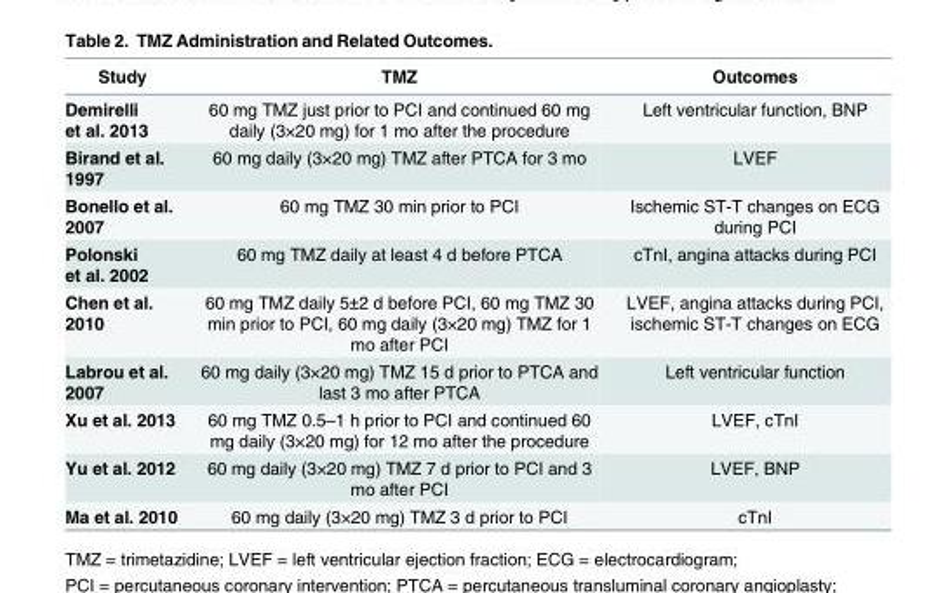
<table><thead><tr><td>Study</td><td>TMZ</td><td>Outcomes</td></tr></thead><tbody><tr><td>Demirelli et al. 2013</td><td>60 mg TMZ just prior to PCI and continued 60 mg daily (3×20 mg) for 1 mo after the procedure</td><td>Left ventricular function, BNP</td></tr><tr><td>Birand et al. 1997</td><td>60 mg daily (3×20 mg) TMZ after PTCA for 3 mo</td><td>LVEF</td></tr><tr><td>Bonello et al. 2007</td><td>60 mg TMZ 30 min prior to PCI</td><td>Ischemic ST-T changes on ECG during PCI</td></tr><tr><td>Polonski et al. 2002</td><td>60 mg TMZ daily at least 4 d before PTCA</td><td>cTnI, angina attacks during PCI</td></tr><tr><td>Chen et al. 2010</td><td>60 mg TMZ daily 5±2 d before PCI, 60 mg TMZ 30 min prior to PCI, 60 mg daily (3×20 mg) TMZ for 1 mo after PCI</td><td>LVEF, angina attacks during PCI, ischemic ST-T changes on ECG</td></tr><tr><td>Labrou et al. 2007</td><td>60 mg daily (3×20 mg) TMZ 15 d prior to PTCA and last 3 mo after PTCA</td><td>Left ventricular function</td></tr><tr><td>Xu et al. 2013</td><td>60 mg TMZ 0.5–1 h prior to PCI and continued 60 mg daily (3×20 mg) for 12 mo after the procedure</td><td>LVEF, cTnI</td></tr><tr><td>Yu et al. 2012</td><td>60 mg daily (3×20 mg) TMZ 7 d prior to PCI and 3 mo after PCI</td><td>LVEF, BNP</td></tr><tr><td>Ma et al. 2010</td><td>60 mg daily (3×20 mg) TMZ 3 d prior to PCI</td><td>cTnI</td></tr></tbody></table>